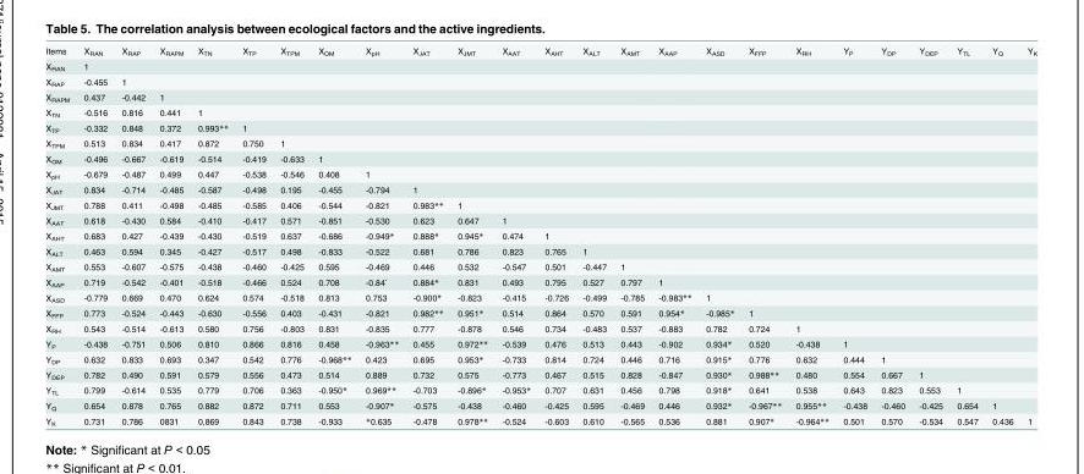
<table><tbody><tr><td>Items</td><td>X<sub>RAN</sub></td><td>X<sub>RAP</sub></td><td>X<sub>RAPM</sub></td><td>X<sub>TN</sub></td><td>X<sub>TP</sub></td><td>X<sub>TPM</sub></td><td>X<sub>OM</sub></td><td>X<sub>pH</sub></td><td>X<sub>JAT</sub></td><td>X<sub>JMT</sub></td><td>X<sub>AAT</sub></td><td>X<sub>AHT</sub></td><td>X<sub>ALT</sub></td><td>X<sub>AMT</sub></td><td>X<sub>AAP</sub></td><td>X<sub>ASD</sub></td><td>X<sub>FFP</sub></td><td>X<sub>RH</sub></td><td>Y<sub>P</sub></td><td>Y<sub>DP</sub></td><td>Y<sub>DEP</sub></td><td>Y<sub>TL</sub></td><td>Y<sub>Q</sub></td><td>Y<sub>K</sub></td></tr><tr><td>X<sub>RAN</sub></td><td>1</td><td></td><td></td><td></td><td></td><td></td><td></td><td></td><td></td><td></td><td></td><td></td><td></td><td></td><td></td><td></td><td></td><td></td><td></td><td></td><td></td><td></td><td></td><td></td></tr><tr><td>X<sub>RAP</sub></td><td>-0.455</td><td>1</td><td></td><td></td><td></td><td></td><td></td><td></td><td></td><td></td><td></td><td></td><td></td><td></td><td></td><td></td><td></td><td></td><td></td><td></td><td></td><td></td><td></td><td></td></tr><tr><td>X<sub>RAPM</sub></td><td>0.437</td><td>-0.442</td><td>1</td><td></td><td></td><td></td><td></td><td></td><td></td><td></td><td></td><td></td><td></td><td></td><td></td><td></td><td></td><td></td><td></td><td></td><td></td><td></td><td></td><td></td></tr><tr><td>X<sub>TN</sub></td><td>-0.516</td><td>0.816</td><td>0.441</td><td>1</td><td></td><td></td><td></td><td></td><td></td><td></td><td></td><td></td><td></td><td></td><td></td><td></td><td></td><td></td><td></td><td></td><td></td><td></td><td></td><td></td></tr><tr><td>X<sub>TP</sub></td><td>-0.332</td><td>0.848</td><td>0.372</td><td>0.993**</td><td>1</td><td></td><td></td><td></td><td></td><td></td><td></td><td></td><td></td><td></td><td></td><td></td><td></td><td></td><td></td><td></td><td></td><td></td><td></td><td></td></tr><tr><td>X<sub>TPM</sub></td><td>0.513</td><td>0.834</td><td>0.417</td><td>0.872</td><td>0.750</td><td>1</td><td></td><td></td><td></td><td></td><td></td><td></td><td></td><td></td><td></td><td></td><td></td><td></td><td></td><td></td><td></td><td></td><td></td><td></td></tr><tr><td>X<sub>OM</sub></td><td>-0.496</td><td>-0.667</td><td>-0.619</td><td>-0.514</td><td>-0.419</td><td>-0.633</td><td>1</td><td></td><td></td><td></td><td></td><td></td><td></td><td></td><td></td><td></td><td></td><td></td><td></td><td></td><td></td><td></td><td></td><td></td></tr><tr><td>X<sub>pH</sub></td><td>-0.679</td><td>-0.487</td><td>0.499</td><td>0.447</td><td>-0.538</td><td>-0.546</td><td>0.408</td><td>1</td><td></td><td></td><td></td><td></td><td></td><td></td><td></td><td></td><td></td><td></td><td></td><td></td><td></td><td></td><td></td><td></td></tr><tr><td>X<sub>JAT</sub></td><td>0.834</td><td>-0.714</td><td>-0.485</td><td>-0.587</td><td>-0.498</td><td>0.195</td><td>-0.455</td><td>-0.794</td><td>1</td><td></td><td></td><td></td><td></td><td></td><td></td><td></td><td></td><td></td><td></td><td></td><td></td><td></td><td></td><td></td></tr><tr><td>X<sub>JMT</sub></td><td>0.788</td><td>0.411</td><td>-0.498</td><td>-0.485</td><td>-0.585</td><td>0.406</td><td>-0.544</td><td>-0.821</td><td>0.983**</td><td>1</td><td></td><td></td><td></td><td></td><td></td><td></td><td></td><td></td><td></td><td></td><td></td><td></td><td></td><td></td></tr><tr><td>X<sub>AAT</sub></td><td>0.618</td><td>-0.430</td><td>0.584</td><td>-0.410</td><td>-0.417</td><td>0.571</td><td>-0.851</td><td>-0.530</td><td>0.623</td><td>0.647</td><td>1</td><td></td><td></td><td></td><td></td><td></td><td></td><td></td><td></td><td></td><td></td><td></td><td></td><td></td></tr><tr><td>X<sub>AHT</sub></td><td>0.683</td><td>0.427</td><td>-0.439</td><td>-0.430</td><td>-0.519</td><td>0.637</td><td>-0.686</td><td>-0.949*</td><td>0.888*</td><td>0.945*</td><td>0.474</td><td>1</td><td></td><td></td><td></td><td></td><td></td><td></td><td></td><td></td><td></td><td></td><td></td><td></td></tr><tr><td>X<sub>ALT</sub></td><td>0.463</td><td>0.594</td><td>0.345</td><td>-0.427</td><td>-0.517</td><td>0.498</td><td>-0.833</td><td>-0.522</td><td>0.681</td><td>0.786</td><td>0.823</td><td>0.765</td><td>1</td><td></td><td></td><td></td><td></td><td></td><td></td><td></td><td></td><td></td><td></td><td></td></tr><tr><td>X<sub>AMT</sub></td><td>0.553</td><td>-0.607</td><td>-0.575</td><td>-0.438</td><td>-0.460</td><td>-0.425</td><td>0.595</td><td>-0.469</td><td>0.446</td><td>0.532</td><td>-0.547</td><td>0.501</td><td>-0.447</td><td>1</td><td></td><td></td><td></td><td></td><td></td><td></td><td></td><td></td><td></td><td></td></tr><tr><td>X<sub>AAP</sub></td><td>0.719</td><td>-0.542</td><td>-0.401</td><td>-0.518</td><td>-0.466</td><td>0.524</td><td>0.708</td><td>-0.84`</td><td>0.884*</td><td>0.831</td><td>0.493</td><td>0.795</td><td>0.527</td><td>0.797</td><td>1</td><td></td><td></td><td></td><td></td><td></td><td></td><td></td><td></td><td></td></tr><tr><td>X<sub>ASD</sub></td><td>-0.779</td><td>0.669</td><td>0.470</td><td>0.624</td><td>0.574</td><td>-0.518</td><td>0.813</td><td>0.753</td><td>-0.900*</td><td>-0.823</td><td>-0.415</td><td>-0.726</td><td>-0.499</td><td>-0.785</td><td>-0.983**</td><td>1</td><td></td><td></td><td></td><td></td><td></td><td></td><td></td><td></td></tr><tr><td>X<sub>FFP</sub></td><td>0.773</td><td>-0.524</td><td>-0.443</td><td>-0.630</td><td>-0.556</td><td>0.403</td><td>-0.431</td><td>-0.821</td><td>0.982**</td><td>0.951*</td><td>0.514</td><td>0.864</td><td>0.570</td><td>0.591</td><td>0.954*</td><td>-0.985*</td><td>1</td><td></td><td></td><td></td><td></td><td></td><td></td><td></td></tr><tr><td>X<sub>RH</sub></td><td>0.543</td><td>-0.514</td><td>-0.613</td><td>0.580</td><td>0.756</td><td>-0.803</td><td>0.831</td><td>-0.835</td><td>0.777</td><td>-0.878</td><td>0.546</td><td>0.734</td><td>-0.483</td><td>0.537</td><td>-0.883</td><td>0.782</td><td>0.724</td><td>1</td><td></td><td></td><td></td><td></td><td></td><td></td></tr><tr><td>Y<sub>P</sub></td><td>-0.438</td><td>-0.751</td><td>0.506</td><td>0.810</td><td>0.866</td><td>0.816</td><td>0.458</td><td>-0.963**</td><td>0.455</td><td>0.972**</td><td>-0.539</td><td>0.476</td><td>0.513</td><td>0.443</td><td>-0.902</td><td>0.934*</td><td>0.520</td><td>-0.438</td><td>1</td><td></td><td></td><td></td><td></td><td></td></tr><tr><td>Y<sub>DP</sub></td><td>0.632</td><td>0.833</td><td>0.693</td><td>0.347</td><td>0.542</td><td>0.776</td><td>-0.968**</td><td>0.423</td><td>0.695</td><td>0.953*</td><td>-0.733</td><td>0.814</td><td>0.724</td><td>0.446</td><td>0.716</td><td>0.915*</td><td>0.776</td><td>0.632</td><td>0.444</td><td>1</td><td></td><td></td><td></td><td></td></tr><tr><td>Y<sub>DEP</sub></td><td>0.782</td><td>0.490</td><td>0.591</td><td>0.579</td><td>0.556</td><td>0.473</td><td>0.514</td><td>0.889</td><td>0.732</td><td>0.575</td><td>-0.773</td><td>0.467</td><td>0.515</td><td>0.828</td><td>-0.847</td><td>0.930*</td><td>0.988**</td><td>0.480</td><td>0.554</td><td>0.667</td><td>1</td><td></td><td></td><td></td></tr><tr><td>Y<sub>TL</sub></td><td>0.799</td><td>-0.614</td><td>0.535</td><td>0.779</td><td>0.706</td><td>0.363</td><td>-0.950*</td><td>0.969**</td><td>-0.703</td><td>-0.896*</td><td>-0.953*</td><td>0.707</td><td>0.631</td><td>0.456</td><td>0.798</td><td>0.918*</td><td>0.641</td><td>0.538</td><td>0.643</td><td>0.823</td><td>0.553</td><td>1</td><td></td><td></td></tr><tr><td>Y<sub>Q</sub></td><td>0.654</td><td>0.878</td><td>0.765</td><td>0.882</td><td>0.872</td><td>0.711</td><td>0.553</td><td>-0.907*</td><td>-0.575</td><td>-0.438</td><td>-0.460</td><td>-0.425</td><td>0.595</td><td>-0.469</td><td>0.446</td><td>0.932*</td><td>-0.967**</td><td>0.955**</td><td>-0.438</td><td>-0.460</td><td>-0.425</td><td>0.654</td><td>1</td><td></td></tr><tr><td>Y<sub>K</sub></td><td>0.731</td><td>0.786</td><td>0831</td><td>0,869</td><td>0.843</td><td>0.738</td><td>-0.933</td><td>*0.635</td><td>-0.478</td><td>0.978**</td><td>-0.524</td><td>-0.603</td><td>0.610</td><td>-0.565</td><td>0.536</td><td>0.881</td><td>0.907*</td><td>-0.964**</td><td>0.501</td><td>0.570</td><td>-0.534</td><td>0.547</td><td>0.436</td><td>1</td></tr></tbody></table>